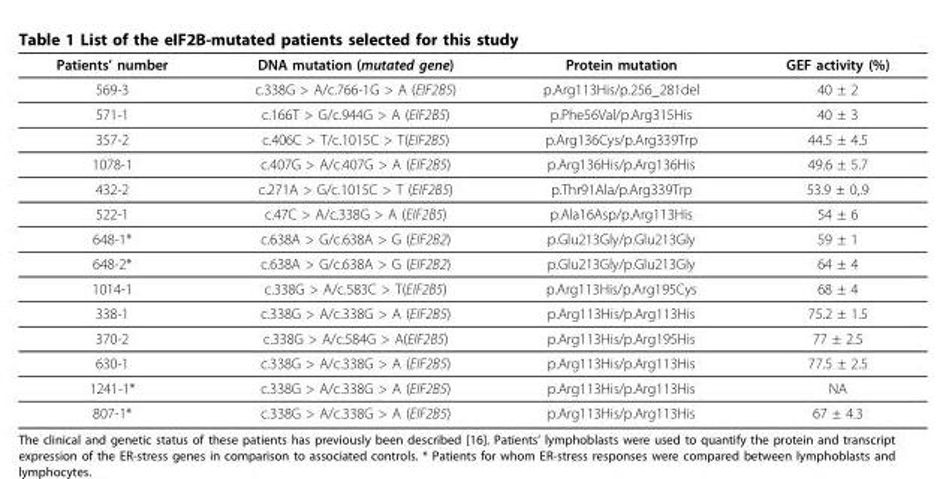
<table><thead><tr><td>Patients’ number</td><td>DNA mutation (mutated gene)</td><td>Protein mutation</td><td>GEF activity (%)</td></tr></thead><tbody><tr><td>569-3</td><td>c.338G &gt; A/c.766-1G &gt; A (EIF2B5)</td><td>p.Arg113His/p.256_281del</td><td>40 ± 2</td></tr><tr><td>571-1</td><td>c.166T &gt; G/c.944G &gt; A (EIF2B5)</td><td>p.Phe56Val/p.Arg315His</td><td>40 ± 3</td></tr><tr><td>357-2</td><td>c.406C &gt; T/c.1015C &gt; T(EIF2B5)</td><td>p.Arg136Cys/p.Arg339Trp</td><td>44.5 ± 4.5</td></tr><tr><td>1078-1</td><td>c.407G &gt; A/c.407G &gt; A (EIF2B5)</td><td>p.Arg136His/p.Arg136His</td><td>49.6 ± 5.7</td></tr><tr><td>432-2</td><td>c.271A &gt; G/c.1015C &gt; T (EIF2B5)</td><td>p.Thr91Ala/p.Arg339Trp</td><td>53.9 ± 0,.9</td></tr><tr><td>522-1</td><td>c.47C &gt; A/c.338G &gt; A (EIF2B5)</td><td>p.Ala16Asp/p.Arg113His</td><td>54 ± 6</td></tr><tr><td>648-1*</td><td>c.638A &gt; G/c.638A &gt; G (EIF2B2)</td><td>p.Glu213Gly/p.Glu213Gly</td><td>59 ± 1</td></tr><tr><td>648-2*</td><td>c.638A &gt; G/c.638A &gt; G (EIF2B2)</td><td>p.Glu213Gly/p.Glu213Gly</td><td>64 ± 4</td></tr><tr><td>1014-1</td><td>c.338G &gt; A/c.583C &gt; T(EIF2B5)</td><td>p.Arg113His/p.Arg195Cys</td><td>68 ± 4</td></tr><tr><td>338-1</td><td>c.338G &gt; A/c.338G &gt; A (EIF2B5)</td><td>p.Arg113His/p.Arg113His</td><td>75.2 ± 1.5</td></tr><tr><td>370-2</td><td>c.338G &gt; A/c.584G &gt; A(EIF2B5)</td><td>p.Arg113His/p.Arg195His</td><td>77 ± 2.5</td></tr><tr><td>630-1</td><td>c.338G &gt; A/c.338G &gt; A (EIF2B5)</td><td>p.Arg113His/p.Arg113His</td><td>77.5 ± 2.5</td></tr><tr><td>1241-1*</td><td>c.338G &gt; A/c.338G &gt; A (EIF2B5)</td><td>p.Arg113His/p.Arg113His</td><td>NA</td></tr><tr><td>807-1*</td><td>c.338G &gt; A/c.338G &gt; A (EIF2B5)</td><td>p.Arg113His/p.Arg113His</td><td>67 ± 4.3</td></tr></tbody></table>